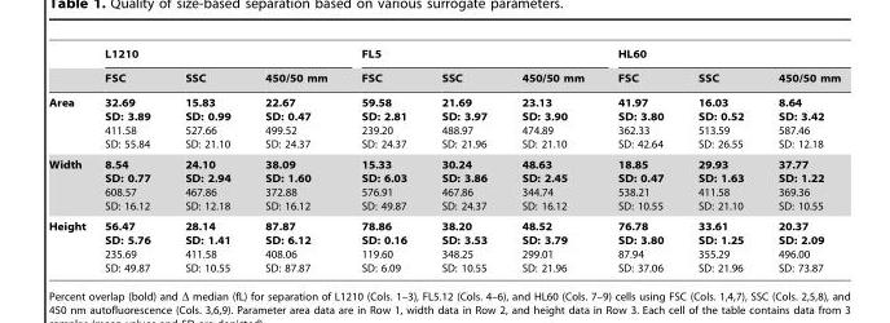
<table><thead><tr><td rowspan="2"></td><td colspan="3">L1210</td><td colspan="3">FL5</td><td colspan="3">HL60</td></tr><tr><td>FSC</td><td>SSC</td><td>450/50 mm</td><td>FSC</td><td>SSC</td><td>450/50 mm</td><td>FSC</td><td>SSC</td><td>450/50 mm</td></tr></thead><tbody><tr><td>Area</td><td>32.69 SD: 3.89 411.58 SD: 55.84</td><td>15.83 SD: 0.99 527.66 SD: 21.10</td><td>22.67 SD: 0.47 499.52 SD: 24.37</td><td>59.58 SD: 2.81 239.20 SD: 24.37</td><td>21.69 SD: 3.97 488.97 SD: 21.96</td><td>23.13 SD: 3.90 474.89 SD: 21.10</td><td>41.97 SD: 3.80 362.33 SD: 42.64</td><td>16.03 SD: 0.52 513.59 SD: 26.55</td><td>8.64 SD: 3.42 587.46 SD: 12.18</td></tr><tr><td>Width</td><td>8.54 SD: 0.77 608.57 SD: 16.12</td><td>24.10 SD: 2.94 467.86 SD: 12.18</td><td>38.09 SD: 1.60 372.88 SD: 16.12</td><td>15.33 SD: 6.03 576.91 SD: 49.87</td><td>30.24 SD: 3.86 467.86 SD: 24.37</td><td>48.63 SD: 2.45 344.74 SD: 16.12</td><td>18.85 SD: 0.47 538.21 SD: 10.55</td><td>29.93 SD: 1.63 411.58 SD: 21.10</td><td>37.77 SD: 1.22 369.36 SD: 10.55</td></tr><tr><td>Height</td><td>56.47 SD: 5.76 235.69 SD: 49.87</td><td>28.14 SD: 1.41 411.58 SD: 10.55</td><td>87.87 SD: 6.12 408.06 SD: 87.87</td><td>78.86 SD: 0.16 119.60 SD: 6.09</td><td>38.20 SD: 3.53 348.25 SD: 10.55</td><td>48.52 SD: 3.79 299.01 SD: 21.96</td><td>76.78 SD: 3.80 87.94 SD: 37.06</td><td>33.61 SD: 1.25 355.29 SD: 21.96</td><td>20.37 SD: 2.09 496.00 SD: 73.87</td></tr></tbody></table>